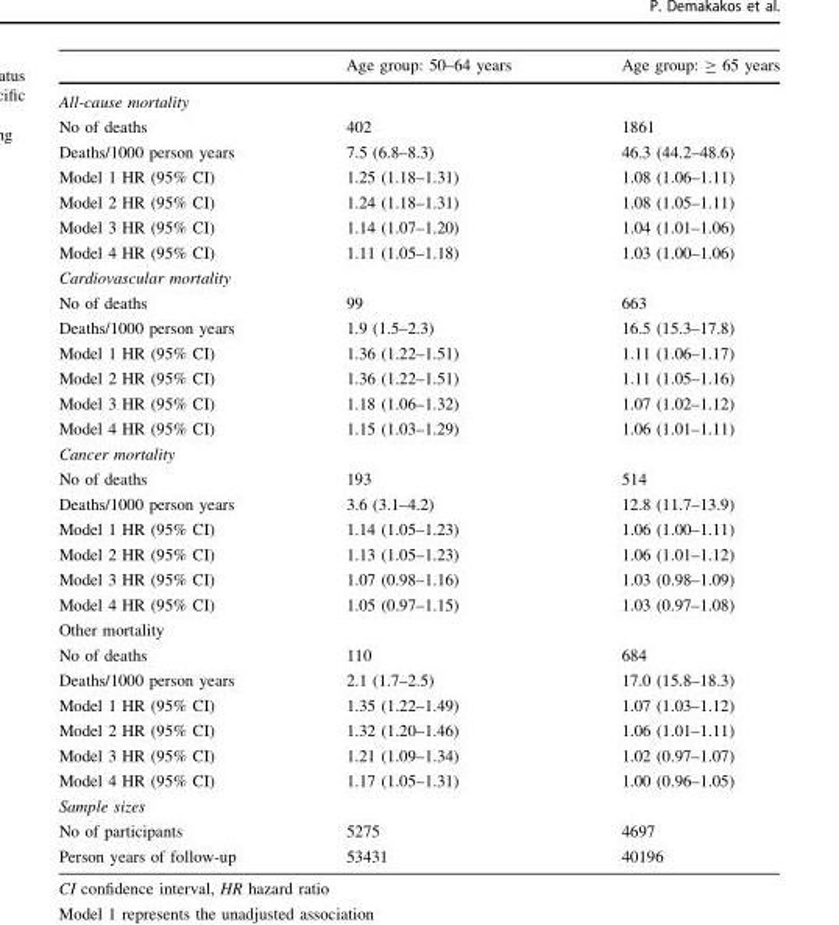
<table><thead><tr><td></td><td>Age group: 50–64 years</td><td>Age group: ≥ 65 years</td></tr></thead><tbody><tr><td colspan="3">All-cause mortality</td></tr><tr><td>No of deaths</td><td>402</td><td>1861</td></tr><tr><td>Deaths/1000 person years</td><td>7.5 (6.8–8.3)</td><td>46.3 (44.2–48.6)</td></tr><tr><td>Model 1 HR (95% CI)</td><td>1.25 (1.18–1.31)</td><td>1.08 (1.06–1.11)</td></tr><tr><td>Model 2 HR (95% CI)</td><td>1.24 (1.18–1.31)</td><td>1.08 (1.05–1.11)</td></tr><tr><td>Model 3 HR (95% CI)</td><td>1.14 (1.07–1.20)</td><td>1.04 (1.01–1.06)</td></tr><tr><td>Model 4 HR (95% CI)</td><td>1.11 (1.05–1.18)</td><td>1.03 (1.00–1.06)</td></tr><tr><td colspan="3">Cardiovascular mortality</td></tr><tr><td>No of deaths</td><td>99</td><td>663</td></tr><tr><td>Deaths/1000 person years</td><td>1.9 (1.5–2.3)</td><td>16.5 (15.3–17.8)</td></tr><tr><td>Model 1 HR (95% CI)</td><td>1.36 (1.22–1.51)</td><td>1.11 (1.06–1.17)</td></tr><tr><td>Model 2 HR (95% CI)</td><td>1.36 (1.22–1.51)</td><td>1.11 (1.05–1.16)</td></tr><tr><td>Model 3 HR (95% CI)</td><td>1.18 (1.06–1.32)</td><td>1.07 (1.02–1.12)</td></tr><tr><td>Model 4 HR (95% CI)</td><td>1.15 (1.03–1.29)</td><td>1.06 (1.01–1.11)</td></tr><tr><td colspan="3">Cancer mortality</td></tr><tr><td>No of deaths</td><td>193</td><td>514</td></tr><tr><td>Deaths/1000 person years</td><td>3.6 (3.1–4.2)</td><td>12.8 (11.7–13.9)</td></tr><tr><td>Model 1 HR (95% CI)</td><td>1.14 (1.05–1.23)</td><td>1.06 (1.00–1.11)</td></tr><tr><td>Model 2 HR (95% CI)</td><td>1.13 (1.05–1.23)</td><td>1.06 (1.01–1.12)</td></tr><tr><td>Model 3 HR (95% CI)</td><td>1.07 (0.98–1.16)</td><td>1.03 (0.98–1.09)</td></tr><tr><td>Model 4 HR (95% CI)</td><td>1.05 (0.97–1.15)</td><td>1.03 (0.97–1.08)</td></tr><tr><td colspan="3">Other mortality</td></tr><tr><td>No of deaths</td><td>110</td><td>684</td></tr><tr><td>Deaths/1000 person years</td><td>2.1 (1.7–2.5)</td><td>17.0 (15.8–18.3)</td></tr><tr><td>Model 1 HR (95% CI)</td><td>1.35 (1.22–1.49)</td><td>1.07 (1.03–1.12)</td></tr><tr><td>Model 2 HR (95% CI)</td><td>1.32 (1.20–1.46)</td><td>1.06 (1.01–1.11)</td></tr><tr><td>Model 3 HR (95% CI)</td><td>1.21 (1.09–1.34)</td><td>1.02 (0.97–1.07)</td></tr><tr><td>Model 4 HR (95% CI)</td><td>1.17 (1.05–1.31)</td><td>1.00 (0.96–1.05)</td></tr><tr><td colspan="3">Sample sizes</td></tr><tr><td>No of participants</td><td>5275</td><td>4697</td></tr><tr><td>Person years of follow-up</td><td>53431</td><td>40196</td></tr></tbody></table>